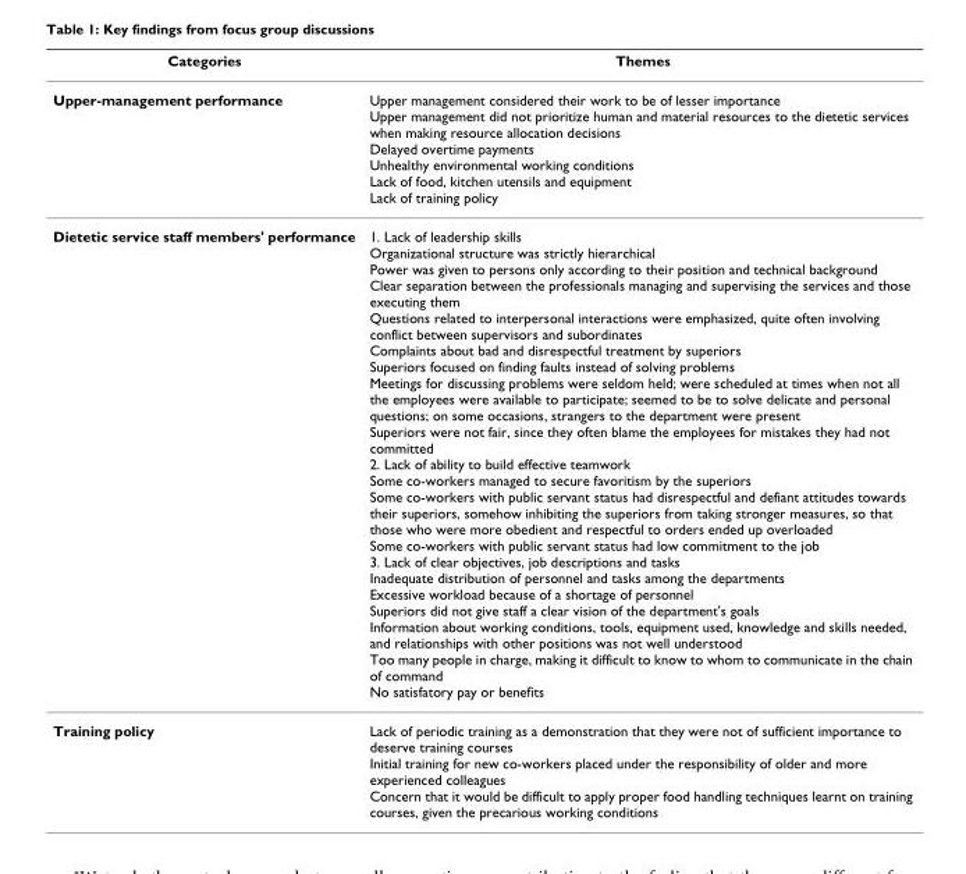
<table><thead><tr><td>Categories</td><td>Themes</td></tr></thead><tbody><tr><td>Upper-management performance</td><td>Upper management considered their work to be of lesser importance Upper management did not prioritize human and material resources to the dietetic services when making resource allocation decisions Delayed overtime payments Unhealthy environmental working conditions Lack of food, kitchen utensils and equipment Lack of training policy</td></tr><tr><td>Dietetic service staff members&#x27; performance</td><td>1. Lack of leadership skills Organizational structure was strictly hierarchical Power was given to persons only according to their position and technical background Clear separation between the professionals managing and supervising the services and those executing them Questions related to interpersonal interactions were emphasized, quite often involving conflict between supervisors and subordinates Complaints about bad and disrespectful treatment by superiors Superiors focused on finding faults instead of solving problems Meetings for discussing problems were seldom held; were scheduled at times when not all the employees were available to participate; seemed to be to solve delicate and personal questions; on some occasions, strangers to the department were present Superiors were not fair, since they often blame the employees for mistakes they had not committed 2. Lack of ability to build effective teamwork Some co-workers managed to secure favoritism by the superiors Some co-workers with public servant status had disrespectful and defiant attitudes towards their superiors, somehow inhibiting the superiors from taking stronger measures, so that those who were more obedient and respectful to orders ended up overloaded Some co-workers with public servant status had low commitment to the job 3. Lack of clear objectives, job descriptions and tasks Inadequate distribution of personnel and tasks among the departments Excessive workload because of a shortage of personnel Superiors did not give staff a clear vision of the department&#x27;s goals Information about working conditions, tools, equipment used, knowledge and skills needed, and relationships with other positions was not well understood Too many people in charge, making it difficult to know to whom to communicate in the chain of command No satisfatory pay or benefits</td></tr><tr><td>Training policy</td><td>Lack of periodic training as a demonstration that they were not of sufficient importance to deserve training courses Initial training for new co-workers placed under the responsibility of older and more experienced colleagues Concern that it would be difficult to apply proper food handling techniques learnt on training courses, given the precarious working conditions</td></tr></tbody></table>